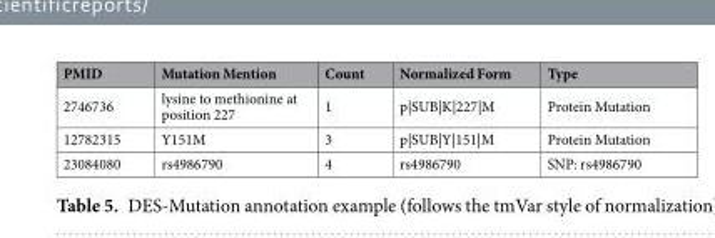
<table><thead><tr><td>PMID</td><td>Mutation Mention</td><td>Count</td><td>Normalized Form</td><td>Type</td></tr></thead><tbody><tr><td>2746736</td><td>lysine to methionine at position 227</td><td>1</td><td>p|SUB|K|227|M</td><td>Protein Mutation</td></tr><tr><td>12782315</td><td>Y151M</td><td>3</td><td>p|SUB|Y|151|M</td><td>Protein Mutation</td></tr><tr><td>23084080</td><td>rs4986790</td><td>4</td><td>rs4986790</td><td>SNP: rs4986790</td></tr></tbody></table>